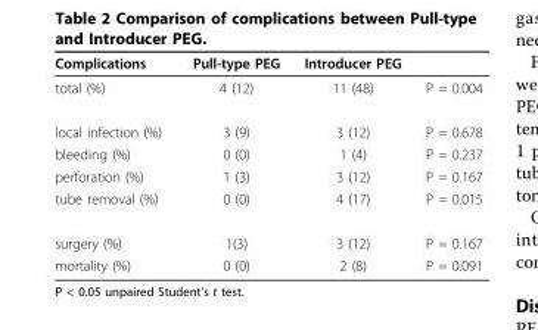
<table><thead><tr><td>Complications</td><td>Pull-type PEG</td><td>Introducer PEG</td><td></td></tr></thead><tbody><tr><td>total (%)</td><td>4 (12)</td><td>11 (48)</td><td>P = 0.004</td></tr><tr><td>local infection (%)</td><td>3 (9)</td><td>3 (12)</td><td>P = 0.678</td></tr><tr><td>bleeding (%)</td><td>0 (0)</td><td>1 (4)</td><td>P = 0.237</td></tr><tr><td>perforation (%)</td><td>1 (3)</td><td>3 (12)</td><td>P = 0.167</td></tr><tr><td>tube removal (%)</td><td>0 (0)</td><td>4 (17)</td><td>P = 0.015</td></tr><tr><td>surgery (%)</td><td>1(3)</td><td>3 (12)</td><td>P = 0.167</td></tr><tr><td>mortality (%)</td><td>0 (0)</td><td>2 (8)</td><td>P = 0.091</td></tr></tbody></table>